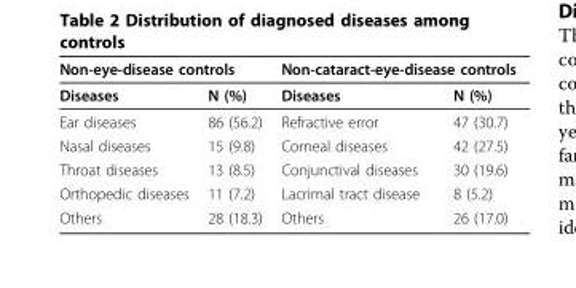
<table><thead><tr><td colspan="2">Non-eye-disease controls</td><td colspan="2">Non-cataract-eye-disease controls</td></tr><tr><td>Diseases</td><td>N (%)</td><td>Diseases</td><td>N (%)</td></tr></thead><tbody><tr><td>Ear diseases</td><td>86 (56.2)</td><td>Refractive error</td><td>47 (30.7)</td></tr><tr><td>Nasal diseases</td><td>15 (9.8)</td><td>Corneal diseases</td><td>42 (27.5)</td></tr><tr><td>Throat diseases</td><td>13 (8.5)</td><td>Conjunctival diseases</td><td>30 (19.6)</td></tr><tr><td>Orthopedic diseases</td><td>11 (7.2)</td><td>Lacrimal tract disease</td><td>8 (5.2)</td></tr><tr><td>Others</td><td>28 (18.3)</td><td>Others</td><td>26 (17.0)</td></tr></tbody></table>